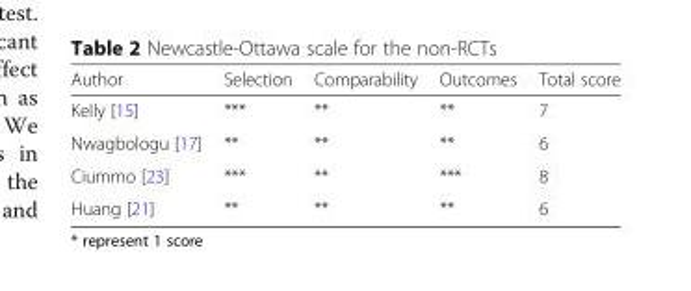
<table><thead><tr><td>Author</td><td>Selection</td><td>Comparability</td><td>Outcomes</td><td>Total score</td></tr></thead><tbody><tr><td>Kelly [15]</td><td>***</td><td>**</td><td>**</td><td>7</td></tr><tr><td>Nwagbologu [17]</td><td>**</td><td>**</td><td>**</td><td>6</td></tr><tr><td>Ciummo [23]</td><td>***</td><td>**</td><td>***</td><td>8</td></tr><tr><td>Huang [21]</td><td>**</td><td>**</td><td>**</td><td>6</td></tr></tbody></table>